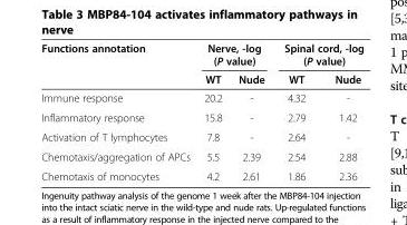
<table><thead><tr><td rowspan="2">Functions annotation</td><td colspan="2">Nerve, -log (P value)</td><td colspan="2">Spinal cord, -log (P value)</td></tr><tr><td>WT</td><td>Nude</td><td>WT</td><td>Nude</td></tr></thead><tbody><tr><td>Immune response</td><td>20.2</td><td>-</td><td>4.32</td><td>-</td></tr><tr><td>Inflammatory response</td><td>15.8</td><td>-</td><td>2.79</td><td>1.42</td></tr><tr><td>Activation of T lymphocytes</td><td>7.8</td><td>-</td><td>2.64</td><td>-</td></tr><tr><td>Chemotaxis/aggregation of APCs</td><td>5.5</td><td>2.39</td><td>2.54</td><td>2.88</td></tr><tr><td>Chemotaxis of monocytes</td><td>4.2</td><td>2.61</td><td>1.86</td><td>2.36</td></tr></tbody></table>